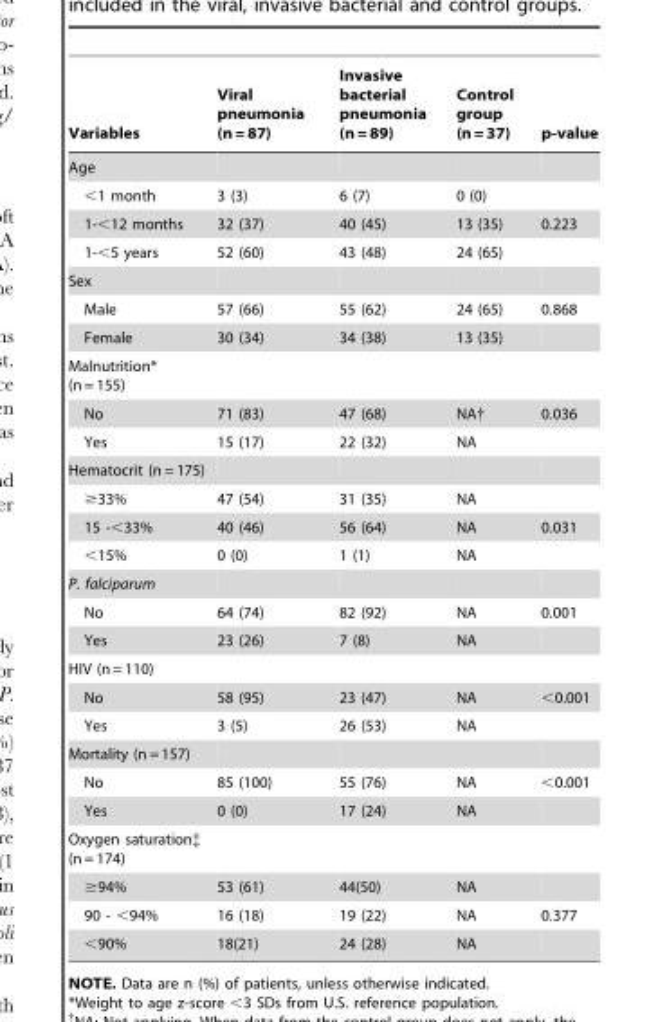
<table><thead><tr><td>Variables</td><td>Viral pneumonia (n = 87)</td><td>Invasive bacterial pneumonia (n = 89)</td><td>Control group (n = 37)</td><td>p-value</td></tr></thead><tbody><tr><td colspan="5">Age</td></tr><tr><td>&lt;1 month</td><td>3 (3)</td><td>6 (7)</td><td>0 (0)</td><td></td></tr><tr><td>1-&lt;12 months</td><td>32 (37)</td><td>40 (45)</td><td>13 (35)</td><td>0.223</td></tr><tr><td>1-&lt;5 years</td><td>52 (60)</td><td>43 (48)</td><td>24 (65)</td><td></td></tr><tr><td colspan="5">Sex</td></tr><tr><td>Male</td><td>57 (66)</td><td>55 (62)</td><td>24 (65)</td><td>0.868</td></tr><tr><td>Female</td><td>30 (34)</td><td>34 (38)</td><td>13 (35)</td><td></td></tr><tr><td colspan="5">Malnutrition* (n = 155)</td></tr><tr><td>No</td><td>71 (83)</td><td>47 (68)</td><td>NA†</td><td>0.036</td></tr><tr><td>Yes</td><td>15 (17)</td><td>22 (32)</td><td>NA</td><td></td></tr><tr><td colspan="5">Hematocrit (n = 175)</td></tr><tr><td>≥33%</td><td>47 (54)</td><td>31 (35)</td><td>NA</td><td></td></tr><tr><td>15 -&lt;33%</td><td>40 (46)</td><td>56 (64)</td><td>NA</td><td>0.031</td></tr><tr><td>&lt;15%</td><td>0 (0)</td><td>1 (1)</td><td>NA</td><td></td></tr><tr><td colspan="5">P. falciparum</td></tr><tr><td>No</td><td>64 (74)</td><td>82 (92)</td><td>NA</td><td>0.001</td></tr><tr><td>Yes</td><td>23 (26)</td><td>7 (8)</td><td>NA</td><td></td></tr><tr><td colspan="5">HIV (n = 110)</td></tr><tr><td>No</td><td>58 (95)</td><td>23 (47)</td><td>NA</td><td>&lt;0.001</td></tr><tr><td>Yes</td><td>3 (5)</td><td>26 (53)</td><td>NA</td><td></td></tr><tr><td colspan="5">Mortality (n = 157)</td></tr><tr><td>No</td><td>85 (100)</td><td>55 (76)</td><td>NA</td><td>&lt;0.001</td></tr><tr><td>Yes</td><td>0 (0)</td><td>17 (24)</td><td>NA</td><td></td></tr><tr><td colspan="5">Oxygen saturation‡ (n = 174)</td></tr><tr><td>≥94%</td><td>53 (61)</td><td>44(50)</td><td>NA</td><td></td></tr><tr><td>90 - &lt;94%</td><td>16 (18)</td><td>19 (22)</td><td>NA</td><td>0.377</td></tr><tr><td>&lt;90%</td><td>18(21)</td><td>24 (28)</td><td>NA</td><td></td></tr></tbody></table>